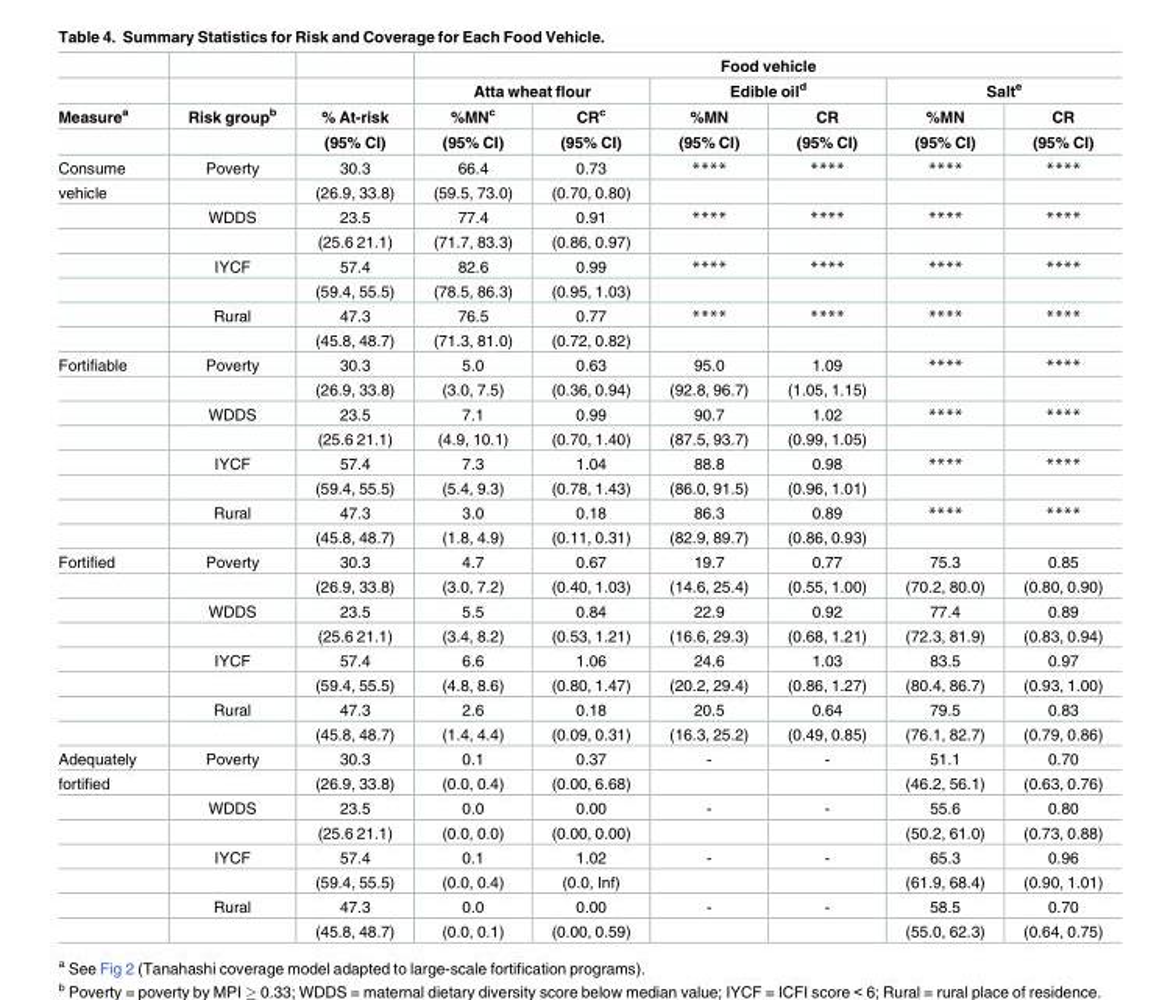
<table><thead><tr><td rowspan="4">Measure<sup>a</sup></td><td rowspan="4">Risk group<sup>b</sup></td><td rowspan="4">% At-risk (95% CI)</td><td colspan="6">Food vehicle</td></tr><tr><td colspan="2">Atta wheat flour</td><td colspan="2">Edible oil<sup>d</sup></td><td colspan="2">Salt<sup>e</sup></td></tr><tr><td rowspan="2">%MN<sup>c</sup> (95% CI)</td><td rowspan="2">CR<sup>c</sup> (95% CI)</td><td rowspan="2">%MN (95% CI)</td><td rowspan="2">CR (95% CI)</td><td rowspan="2">%MN (95% CI)</td><td rowspan="2">CR (95% CI)</td></tr><tr></tr></thead><tbody><tr><td>Consume</td><td>Poverty</td><td>30.3</td><td>66.4</td><td>0.73</td><td>****</td><td>****</td><td>****</td><td>****</td></tr><tr><td rowspan="7">vehicle</td><td></td><td>(26.9, 33.8)</td><td>(59.5, 73.0)</td><td>(0.70, 0.80)</td><td></td><td></td><td></td><td></td></tr><tr><td>WDDS</td><td>23.5</td><td>77.4</td><td>0.91</td><td>****</td><td>****</td><td>****</td><td>****</td></tr><tr><td></td><td>(25.6 21.1)</td><td>(71.7, 83.3)</td><td>(0.86, 0.97)</td><td></td><td></td><td></td><td></td></tr><tr><td>IYCF</td><td>57.4</td><td>82.6</td><td>0.99</td><td>****</td><td>****</td><td>****</td><td>****</td></tr><tr><td></td><td>(59.4, 55.5)</td><td>(78.5, 86.3)</td><td>(0.95, 1.03)</td><td></td><td></td><td></td><td></td></tr><tr><td>Rural</td><td>47.3</td><td>76.5</td><td>0.77</td><td>****</td><td>****</td><td>****</td><td>****</td></tr><tr><td></td><td>(45.8, 48.7)</td><td>(71.3, 81.0)</td><td>(0.72, 0.82)</td><td></td><td></td><td></td><td></td></tr><tr><td rowspan="8">Fortifiable</td><td>Poverty</td><td>30.3</td><td>5.0</td><td>0.63</td><td>95.0</td><td>1.09</td><td>****</td><td>****</td></tr><tr><td></td><td>(26.9, 33.8)</td><td>(3.0, 7.5)</td><td>(0.36, 0.94)</td><td>(92.8, 96.7)</td><td>(1.05, 1.15)</td><td></td><td></td></tr><tr><td>WDDS</td><td>23.5</td><td>7.1</td><td>0.99</td><td>90.7</td><td>1.02</td><td>****</td><td>****</td></tr><tr><td></td><td>(25.6 21.1)</td><td>(4.9, 10.1)</td><td>(0.70, 1.40)</td><td>(87.5, 93.7)</td><td>(0.99, 1.05)</td><td></td><td></td></tr><tr><td>IYCF</td><td>57.4</td><td>7.3</td><td>1.04</td><td>88.8</td><td>0.98</td><td>****</td><td>****</td></tr><tr><td></td><td>(59.4, 55.5)</td><td>(5.4, 9.3)</td><td>(0.78, 1.43)</td><td>(86.0, 91.5)</td><td>(0.96, 1.01)</td><td></td><td></td></tr><tr><td>Rural</td><td>47.3</td><td>3.0</td><td>0.18</td><td>86.3</td><td>0.89</td><td>****</td><td>****</td></tr><tr><td></td><td>(45.8, 48.7)</td><td>(1.8, 4.9)</td><td>(0.11, 0.31)</td><td>(82.9, 89.7)</td><td>(0.86, 0.93)</td><td></td><td></td></tr><tr><td rowspan="8">Fortified</td><td>Poverty</td><td>30.3</td><td>4.7</td><td>0.67</td><td>19.7</td><td>0.77</td><td>75.3</td><td>0.85</td></tr><tr><td></td><td>(26.9, 33.8)</td><td>(3.0, 7.2)</td><td>(0.40, 1.03)</td><td>(14.6, 25.4)</td><td>(0.55, 1.00)</td><td>(70.2, 80.0)</td><td>(0.80, 0.90)</td></tr><tr><td>WDDS</td><td>23.5</td><td>5.5</td><td>0.84</td><td>22.9</td><td>0.92</td><td>77.4</td><td>0.89</td></tr><tr><td></td><td>(25.6 21.1)</td><td>(3.4, 8.2)</td><td>(0.53, 1.21)</td><td>(16.6, 29.3)</td><td>(0.68, 1.21)</td><td>(72.3, 81.9)</td><td>(0.83, 0.94)</td></tr><tr><td>IYCF</td><td>57.4</td><td>6.6</td><td>1.06</td><td>24.6</td><td>1.03</td><td>83.5</td><td>0.97</td></tr><tr><td></td><td>(59.4, 55.5)</td><td>(4.8, 8.6)</td><td>(0.80, 1.47)</td><td>(20.2, 29.4)</td><td>(0.86, 1.27)</td><td>(80.4, 86.7)</td><td>(0.93, 1.00)</td></tr><tr><td>Rural</td><td>47.3</td><td>2.6</td><td>0.18</td><td>20.5</td><td>0.64</td><td>79.5</td><td>0.83</td></tr><tr><td></td><td>(45.8, 48.7)</td><td>(1.4, 4.4)</td><td>(0.09, 0.31)</td><td>(16.3, 25.2)</td><td>(0.49, 0.85)</td><td>(76.1, 82.7)</td><td>(0.79, 0.86)</td></tr><tr><td>Adequately</td><td>Poverty</td><td>30.3</td><td>0.1</td><td>0.37</td><td>-</td><td>-</td><td>51.1</td><td>0.70</td></tr><tr><td rowspan="7">fortified</td><td></td><td>(26.9, 33.8)</td><td>(0.0, 0.4)</td><td>(0.00, 6.68)</td><td></td><td></td><td>(46.2, 56.1)</td><td>(0.63, 0.76)</td></tr><tr><td>WDDS</td><td>23.5</td><td>0.0</td><td>0.00</td><td>-</td><td>-</td><td>55.6</td><td>0.80</td></tr><tr><td></td><td>(25.6 21.1)</td><td>(0.0, 0.0)</td><td>(0.00, 0.00)</td><td></td><td></td><td>(50.2, 61.0)</td><td>(0.73, 0.88)</td></tr><tr><td>IYCF</td><td>57.4</td><td>0.1</td><td>1.02</td><td>-</td><td>-</td><td>65.3</td><td>0.96</td></tr><tr><td></td><td>(59.4, 55.5)</td><td>(0.0, 0.4)</td><td>(0.0, Inf)</td><td></td><td></td><td>(61.9, 68.4)</td><td>(0.90, 1.01)</td></tr><tr><td>Rural</td><td>47.3</td><td>0.0</td><td>0.00</td><td>-</td><td>-</td><td>58.5</td><td>0.70</td></tr><tr><td></td><td>(45.8, 48.7)</td><td>(0.0, 0.1)</td><td>(0.00, 0.59)</td><td></td><td></td><td>(55.0, 62.3)</td><td>(0.64, 0.75)</td></tr></tbody></table>